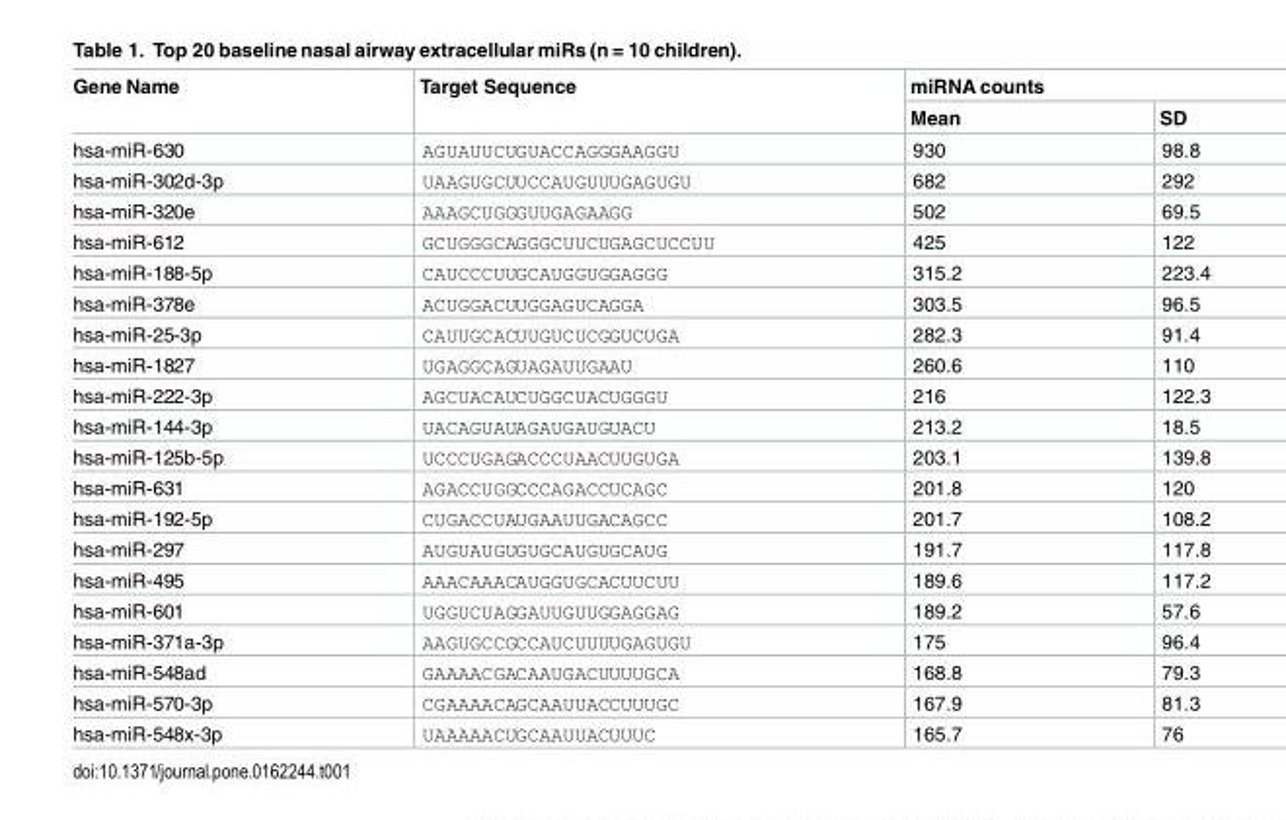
<table><thead><tr><td rowspan="2">Gene Name</td><td rowspan="2">Target Sequence</td><td colspan="2">miRNA counts</td></tr><tr><td>Mean</td><td>SD</td></tr></thead><tbody><tr><td>hsa-miR-630</td><td>AGUAUUCUGUACCAGGGAAGGU</td><td>930</td><td>98.8</td></tr><tr><td>hsa-miR-302d-3p</td><td>UAAGUGCUUCCAUGUUUGAGUGU</td><td>682</td><td>292</td></tr><tr><td>hsa-miR-320e</td><td>AAAGCUGGGUUGAGAAGG</td><td>502</td><td>69.5</td></tr><tr><td>hsa-miR-612</td><td>GCUGGGCAGGGCUUCUGAGCUCCUU</td><td>425</td><td>122</td></tr><tr><td>hsa-miR-188-5p</td><td>CAUCCCUUGCAUGGUGGAGGG</td><td>315.2</td><td>223.4</td></tr><tr><td>hsa-miR-378e</td><td>ACUGGACUUGGAGUCAGGA</td><td>303.5</td><td>96.5</td></tr><tr><td>hsa-miR-25-3p</td><td>CAUUGCACUUGUCUCGGUCUGA</td><td>282.3</td><td>91.4</td></tr><tr><td>hsa-miR-1827</td><td>UGAGGCAGUAGAUUGAAU</td><td>260.6</td><td>110</td></tr><tr><td>hsa-miR-222-3p</td><td>AGCUACAUCUGGCUACUGGGU</td><td>216</td><td>122.3</td></tr><tr><td>hsa-miR-144-3p</td><td>UACAGUAUAGAUGAUGUACU</td><td>213.2</td><td>18.5</td></tr><tr><td>hsa-miR-125b-5p</td><td>UCCCUGAGACCCUAACUUGUGA</td><td>203.1</td><td>139.8</td></tr><tr><td>hsa-miR-631</td><td>AGACCUGGCCCAGACCUCAGC</td><td>201.8</td><td>120</td></tr><tr><td>hsa-miR-192-5p</td><td>CUGACCUAUGAAUUGACAGCC</td><td>201.7</td><td>108.2</td></tr><tr><td>hsa-miR-297</td><td>AUGUAUGUGUGCAUGUGCAUG</td><td>191.7</td><td>117.8</td></tr><tr><td>hsa-miR-495</td><td>AAACAAACAUGGUGCACUUCUU</td><td>189.6</td><td>117.2</td></tr><tr><td>hsa-miR-601</td><td>UGGUCUAGGAUUGUUGGAGGAG</td><td>189.2</td><td>57.6</td></tr><tr><td>hsa-miR-371a-3p</td><td>AAGUGCCGCCAUCUUUUGAGUGU</td><td>175</td><td>96.4</td></tr><tr><td>hsa-miR-548ad</td><td>GAAAACGACAAUGACUUUUGCA</td><td>168.8</td><td>79.3</td></tr><tr><td>hsa-miR-570-3p</td><td>CGAAAACAGCAAUUACCUUUGC</td><td>167.9</td><td>81.3</td></tr><tr><td>hsa-miR-548x-3p</td><td>UAAAAACUGCAAUUACUUUC</td><td>165.7</td><td>76</td></tr></tbody></table>